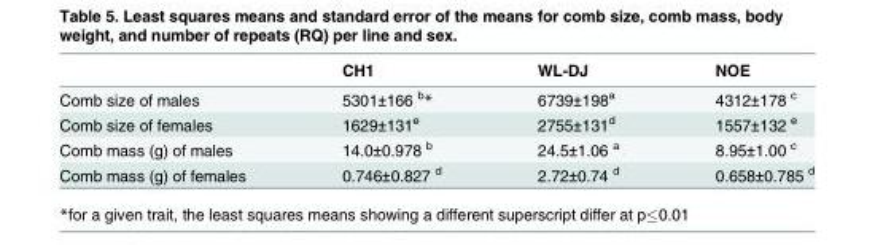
<table><thead><tr><td></td><td>CH1</td><td>WL-DJ</td><td>NOE</td></tr></thead><tbody><tr><td>Comb size of males</td><td>5301±166 <sup>b</sup>*</td><td>6739±198<sup>a</sup></td><td>4312±178 <sup>c</sup></td></tr><tr><td>Comb size of females</td><td>1629±131<sup>e</sup></td><td>2755±131<sup>d</sup></td><td>1557±132 <sup>e</sup></td></tr><tr><td>Comb mass (g) of males</td><td>14.0±0.978 <sup>b</sup></td><td>24.5±1.06 <sup>a</sup></td><td>8.95±1.00 <sup>c</sup></td></tr><tr><td>Comb mass (g) of females</td><td>0.746±0.827 <sup>d</sup></td><td>2.72±0.74 <sup>d</sup></td><td>0.658±0.785 <sup>d</sup></td></tr></tbody></table>